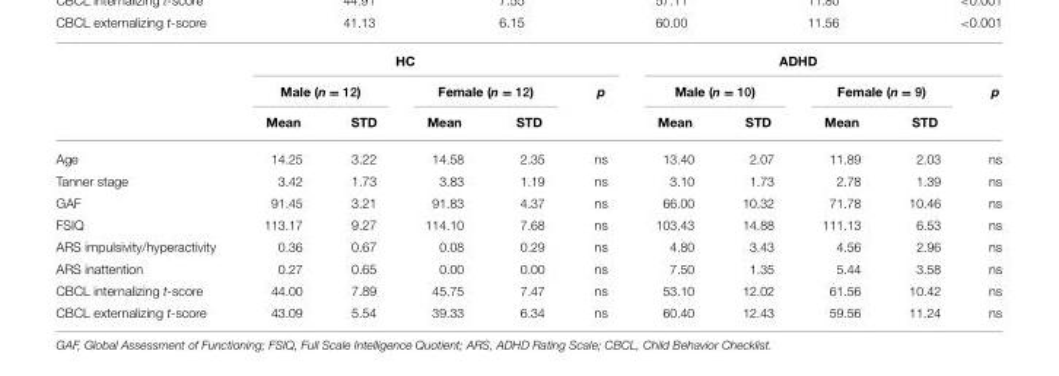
<table><thead><tr><td rowspan="3"></td><td colspan="5">HC</td><td colspan="5">ADHD</td></tr><tr><td colspan="2">Male (n = 12)</td><td colspan="2">Female (n = 12)</td><td rowspan="2">p</td><td colspan="2">Male (n = 10)</td><td colspan="2">Female (n = 9)</td><td rowspan="2">p</td></tr><tr><td>Mean</td><td>STD</td><td>Mean</td><td>STD</td><td>Mean</td><td>STD</td><td>Mean</td><td>STD</td></tr></thead><tbody><tr><td>Age</td><td>14.25</td><td>3.22</td><td>14.58</td><td>2.35</td><td>ns</td><td>13.40</td><td>2.07</td><td>11.89</td><td>2.03</td><td>ns</td></tr><tr><td>Tanner stage</td><td>3.42</td><td>1.73</td><td>3.83</td><td>1.19</td><td>ns</td><td>3.10</td><td>1.73</td><td>2.78</td><td>1.39</td><td>ns</td></tr><tr><td>GAF</td><td>91.45</td><td>3.21</td><td>91.83</td><td>4.37</td><td>ns</td><td>66.00</td><td>10.32</td><td>71.78</td><td>10.46</td><td>ns</td></tr><tr><td>FSIQ</td><td>113.17</td><td>9.27</td><td>114.10</td><td>7.68</td><td>ns</td><td>103.43</td><td>14.88</td><td>111.13</td><td>6.53</td><td>ns</td></tr><tr><td>ARS impulsivity/hyperactivity</td><td>0.36</td><td>0.67</td><td>0.08</td><td>0.29</td><td>ns</td><td>4.80</td><td>3.43</td><td>4.56</td><td>2.96</td><td>ns</td></tr><tr><td>ARS inattention</td><td>0.27</td><td>0.65</td><td>0.00</td><td>0.00</td><td>ns</td><td>7.50</td><td>1.35</td><td>5.44</td><td>3.58</td><td>ns</td></tr><tr><td>CBCL internalizing t-score</td><td>44.00</td><td>7.89</td><td>45.75</td><td>7.47</td><td>ns</td><td>53.10</td><td>12.02</td><td>61.56</td><td>10.42</td><td>ns</td></tr><tr><td>CBCL externalizing t-score</td><td>43.09</td><td>5.54</td><td>39.33</td><td>6.34</td><td>ns</td><td>60.40</td><td>12.43</td><td>59.56</td><td>11.24</td><td>ns</td></tr></tbody></table>